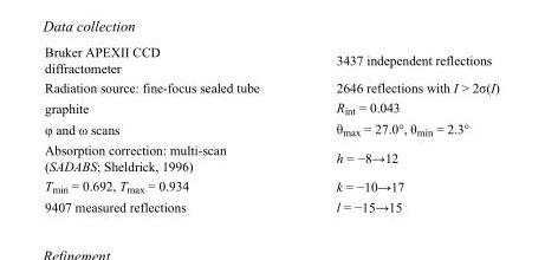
<table><tbody><tr><td>Bruker APEXII CCD diffractometer</td><td>3437 independent reflections</td></tr><tr><td>Radiation source: fine-focus sealed tube</td><td>2646 reflections with I &gt; 2σ(I)</td></tr><tr><td>graphite</td><td>R<sub>int</sub> = 0.043</td></tr><tr><td>φ and ω scans</td><td>θ<sub>max</sub> = 27.0°, θ<sub>min</sub> = 2.3°</td></tr><tr><td>Absorption correction: multi-scan (SADABS; Sheldrick, 1996)</td><td>h = −8→12</td></tr><tr><td>T<sub>min</sub> = 0.692, T<sub>max</sub> = 0.934</td><td>k = −10→17</td></tr><tr><td>9407 measured reflections</td><td>l = −15→15</td></tr></tbody></table>